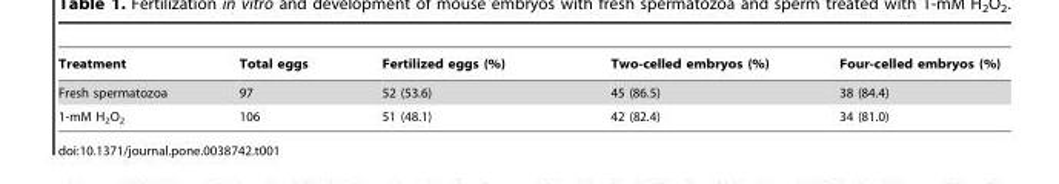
<table><thead><tr><td>Treatment</td><td>Total eggs</td><td>Fertilized eggs (%)</td><td>Two-celled embryos (%)</td><td>Four-celled embryos (%)</td></tr></thead><tbody><tr><td>Fresh spermatozoa</td><td>97</td><td>52 (53.6)</td><td>45 (86.5)</td><td>38 (84.4)</td></tr><tr><td>1-mM H<sub>2</sub>O<sub>2</sub></td><td>106</td><td>51 (48.1)</td><td>42 (82.4)</td><td>34 (81.0)</td></tr></tbody></table>